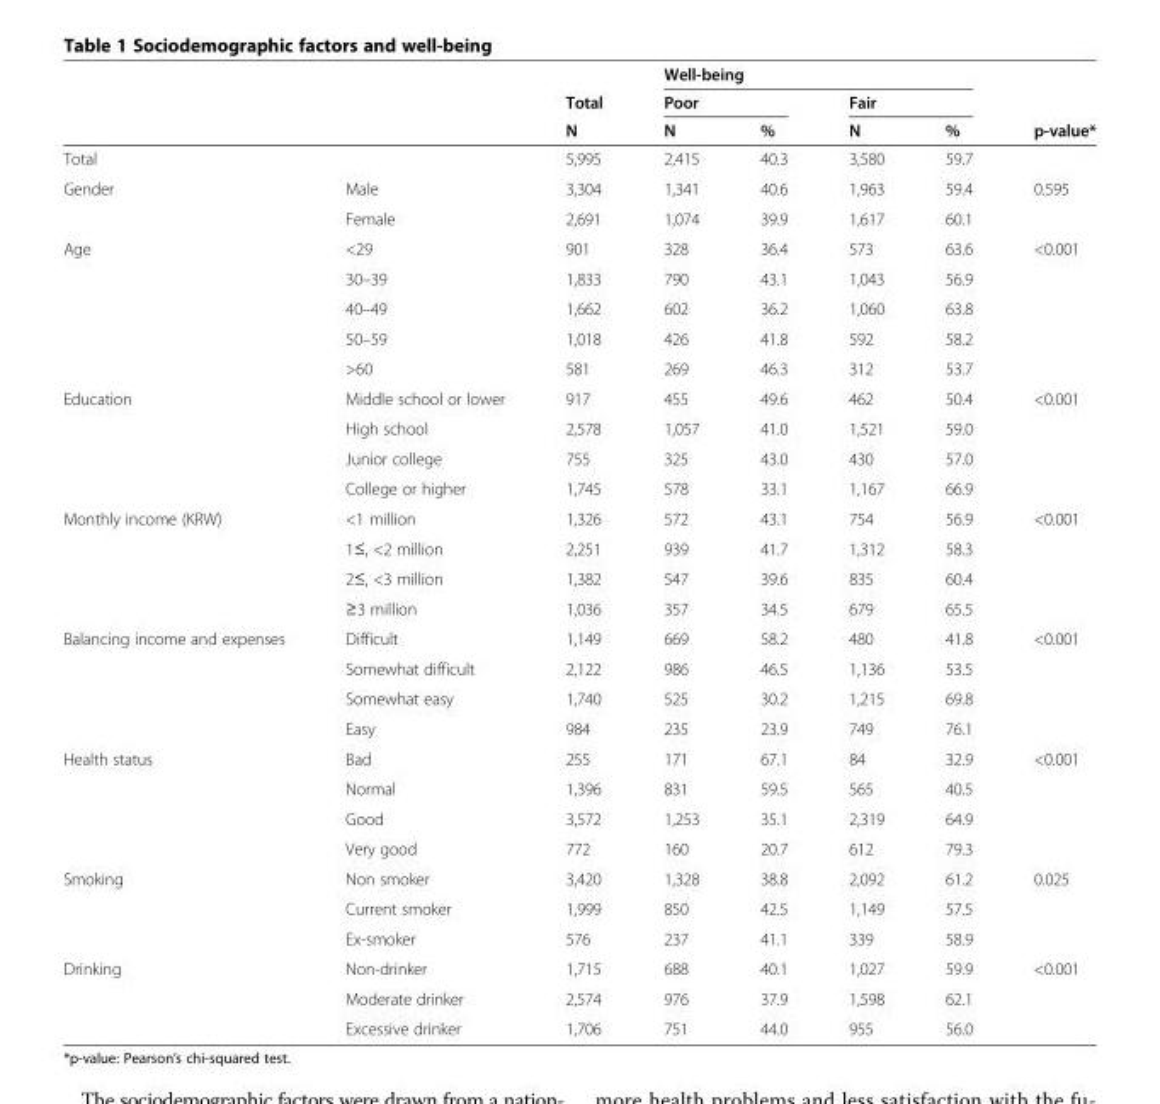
<table><thead><tr><td rowspan="3"></td><td rowspan="3"></td><td rowspan="3">Total N</td><td colspan="4">Well-being</td><td rowspan="3">p-value*</td></tr><tr><td colspan="2">Poor</td><td colspan="2">Fair</td></tr><tr><td>N</td><td>%</td><td>N</td><td>%</td></tr></thead><tbody><tr><td>Total</td><td></td><td>5,995</td><td>2,415</td><td>40.3</td><td>3,580</td><td>59.7</td><td></td></tr><tr><td rowspan="2">Gender</td><td>Male</td><td>3,304</td><td>1,341</td><td>40.6</td><td>1,963</td><td>59.4</td><td rowspan="2">0.595</td></tr><tr><td>Female</td><td>2,691</td><td>1,074</td><td>39.9</td><td>1,617</td><td>60.1</td></tr><tr><td rowspan="5">Age</td><td>&lt;29</td><td>901</td><td>328</td><td>36.4</td><td>573</td><td>63.6</td><td rowspan="5">&lt;0.001</td></tr><tr><td>30–39</td><td>1,833</td><td>790</td><td>43.1</td><td>1,043</td><td>56.9</td></tr><tr><td>40–49</td><td>1,662</td><td>602</td><td>36.2</td><td>1,060</td><td>63.8</td></tr><tr><td>50–59</td><td>1,018</td><td>426</td><td>41.8</td><td>592</td><td>58.2</td></tr><tr><td>&gt;60</td><td>581</td><td>269</td><td>46.3</td><td>312</td><td>53.7</td></tr><tr><td rowspan="4">Education</td><td>Middle school or lower</td><td>917</td><td>455</td><td>49.6</td><td>462</td><td>50.4</td><td rowspan="4">&lt;0.001</td></tr><tr><td>High school</td><td>2,578</td><td>1,057</td><td>41.0</td><td>1,521</td><td>59.0</td></tr><tr><td>Junior college</td><td>755</td><td>325</td><td>43.0</td><td>430</td><td>57.0</td></tr><tr><td>College or higher</td><td>1,745</td><td>578</td><td>33.1</td><td>1,167</td><td>66.9</td></tr><tr><td rowspan="4">Monthly income (KRW)</td><td>&lt;1 million</td><td>1,326</td><td>572</td><td>43.1</td><td>754</td><td>56.9</td><td rowspan="4">&lt;0.001</td></tr><tr><td>1≤, &lt;2 million</td><td>2,251</td><td>939</td><td>41.7</td><td>1,312</td><td>58.3</td></tr><tr><td>2≤, &lt;3 million</td><td>1,382</td><td>547</td><td>39.6</td><td>835</td><td>60.4</td></tr><tr><td>≥3 million</td><td>1,036</td><td>357</td><td>34.5</td><td>679</td><td>65.5</td></tr><tr><td rowspan="4">Balancing income and expenses</td><td>Difficult</td><td>1,149</td><td>669</td><td>58.2</td><td>480</td><td>41.8</td><td rowspan="4">&lt;0.001</td></tr><tr><td>Somewhat difficult</td><td>2,122</td><td>986</td><td>46.5</td><td>1,136</td><td>53.5</td></tr><tr><td>Somewhat easy</td><td>1,740</td><td>525</td><td>30.2</td><td>1,215</td><td>69.8</td></tr><tr><td>Easy</td><td>984</td><td>235</td><td>23.9</td><td>749</td><td>76.1</td></tr><tr><td rowspan="4">Health status</td><td>Bad</td><td>255</td><td>171</td><td>67.1</td><td>84</td><td>32.9</td><td rowspan="4">&lt;0.001</td></tr><tr><td>Normal</td><td>1,396</td><td>831</td><td>59.5</td><td>565</td><td>40.5</td></tr><tr><td>Good</td><td>3,572</td><td>1,253</td><td>35.1</td><td>2,319</td><td>64.9</td></tr><tr><td>Very good</td><td>772</td><td>160</td><td>20.7</td><td>612</td><td>79.3</td></tr><tr><td rowspan="3">Smoking</td><td>Non smoker</td><td>3,420</td><td>1,328</td><td>38.8</td><td>2,092</td><td>61.2</td><td rowspan="3">0.025</td></tr><tr><td>Current smoker</td><td>1,999</td><td>850</td><td>42.5</td><td>1,149</td><td>57.5</td></tr><tr><td>Ex-smoker</td><td>576</td><td>237</td><td>41.1</td><td>339</td><td>58.9</td></tr><tr><td rowspan="3">Drinking</td><td>Non-drinker</td><td>1,715</td><td>688</td><td>40.1</td><td>1,027</td><td>59.9</td><td rowspan="3">&lt;0.001</td></tr><tr><td>Moderate drinker</td><td>2,574</td><td>976</td><td>37.9</td><td>1,598</td><td>62.1</td></tr><tr><td>Excessive drinker</td><td>1,706</td><td>751</td><td>44.0</td><td>955</td><td>56.0</td></tr></tbody></table>